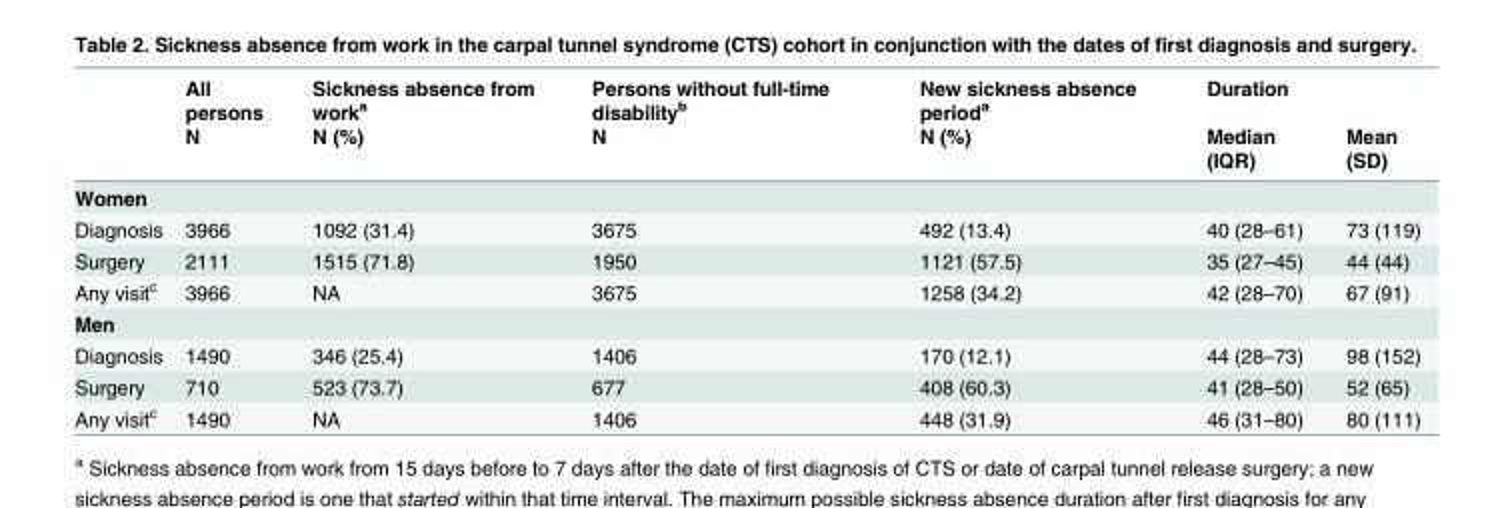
<table><thead><tr><td rowspan="2"></td><td rowspan="2">All persons N</td><td rowspan="2">Sickness absence from work<sup>a</sup> N (%)</td><td rowspan="2">Persons without full-time disability<sup>b</sup> N</td><td rowspan="2">New sickness absence period<sup>a</sup> N (%)</td><td rowspan="2">Duration Median (IQR)</td><td rowspan="2">Mean (SD)</td></tr><tr></tr></thead><tbody><tr><td colspan="7">Women</td></tr><tr><td>Diagnosis</td><td>3966</td><td>1092 (31.4)</td><td>3675</td><td>492 (13.4)</td><td>40 (28–61)</td><td>73 (119)</td></tr><tr><td>Surgery</td><td>2111</td><td>1515 (71.8)</td><td>1950</td><td>1121 (57.5)</td><td>35 (27–45)</td><td>44 (44)</td></tr><tr><td>Any visit<sup>c</sup></td><td>3966</td><td>NA</td><td>3675</td><td>1258 (34.2)</td><td>42 (28–70)</td><td>67 (91)</td></tr><tr><td colspan="7">Men</td></tr><tr><td>Diagnosis</td><td>1490</td><td>346 (25.4)</td><td>1406</td><td>170 (12.1)</td><td>44 (28–73)</td><td>98 (152)</td></tr><tr><td>Surgery</td><td>710</td><td>523 (73.7)</td><td>677</td><td>408 (60.3)</td><td>41 (28–50)</td><td>52 (65)</td></tr><tr><td>Any visit<sup>c</sup></td><td>1490</td><td>NA</td><td>1406</td><td>448 (31.9)</td><td>46 (31–80)</td><td>80 (111)</td></tr></tbody></table>